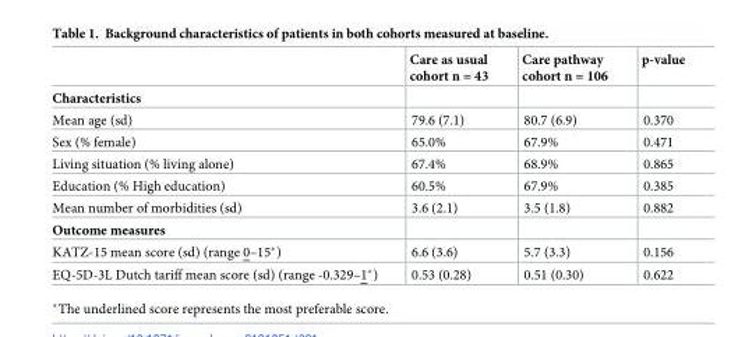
<table><thead><tr><td></td><td>Care as usual cohort n = 43</td><td>Care pathway cohort n = 106</td><td>p-value</td></tr></thead><tbody><tr><td colspan="4">Characteristics</td></tr><tr><td>Mean age (sd)</td><td>79.6 (7.1)</td><td>80.7 (6.9)</td><td>0.370</td></tr><tr><td>Sex (% female)</td><td>65.0%</td><td>67.9%</td><td>0.471</td></tr><tr><td>Living situation (% living alone)</td><td>67.4%</td><td>68.9%</td><td>0.865</td></tr><tr><td>Education (% High education)</td><td>60.5%</td><td>67.9%</td><td>0.385</td></tr><tr><td>Mean number of morbidities (sd)</td><td>3.6 (2.1)</td><td>3.5 (1.8)</td><td>0.882</td></tr><tr><td colspan="4">Outcome measures</td></tr><tr><td>KATZ-15 mean score (sd) (range 0–15*)</td><td>6.6 (3.6)</td><td>5.7 (3.3)</td><td>0.156</td></tr><tr><td>EQ-5D-3L Dutch tariff mean score (sd) (range -0.329–1*)</td><td>0.53 (0.28)</td><td>0.51 (0.30)</td><td>0.622</td></tr></tbody></table>